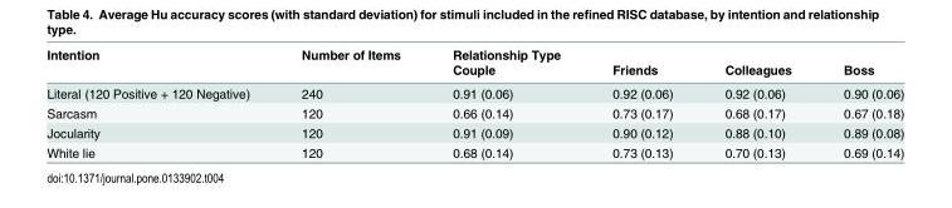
<table><thead><tr><td rowspan="2">Intention</td><td rowspan="2">Number of Items</td><td rowspan="2">Relationship Type Couple</td><td rowspan="2">Friends</td><td rowspan="2">Colleagues</td><td rowspan="2">Boss</td></tr><tr></tr></thead><tbody><tr><td>Literal (120 Positive + 120 Negative)</td><td>240</td><td>0.91 (0.06)</td><td>0.92 (0.06)</td><td>0.92 (0.06)</td><td>0.90 (0.06)</td></tr><tr><td>Sarcasm</td><td>120</td><td>0.66 (0.14)</td><td>0.73 (0.17)</td><td>0.68 (0.17)</td><td>0.67 (0.18)</td></tr><tr><td>Jocularity</td><td>120</td><td>0.91 (0.09)</td><td>0.90 (0.12)</td><td>0.88 (0.10)</td><td>0.89 (0.08)</td></tr><tr><td>White lie</td><td>120</td><td>0.68 (0.14)</td><td>0.73 (0.13)</td><td>0.70 (0.13)</td><td>0.69 (0.14)</td></tr></tbody></table>